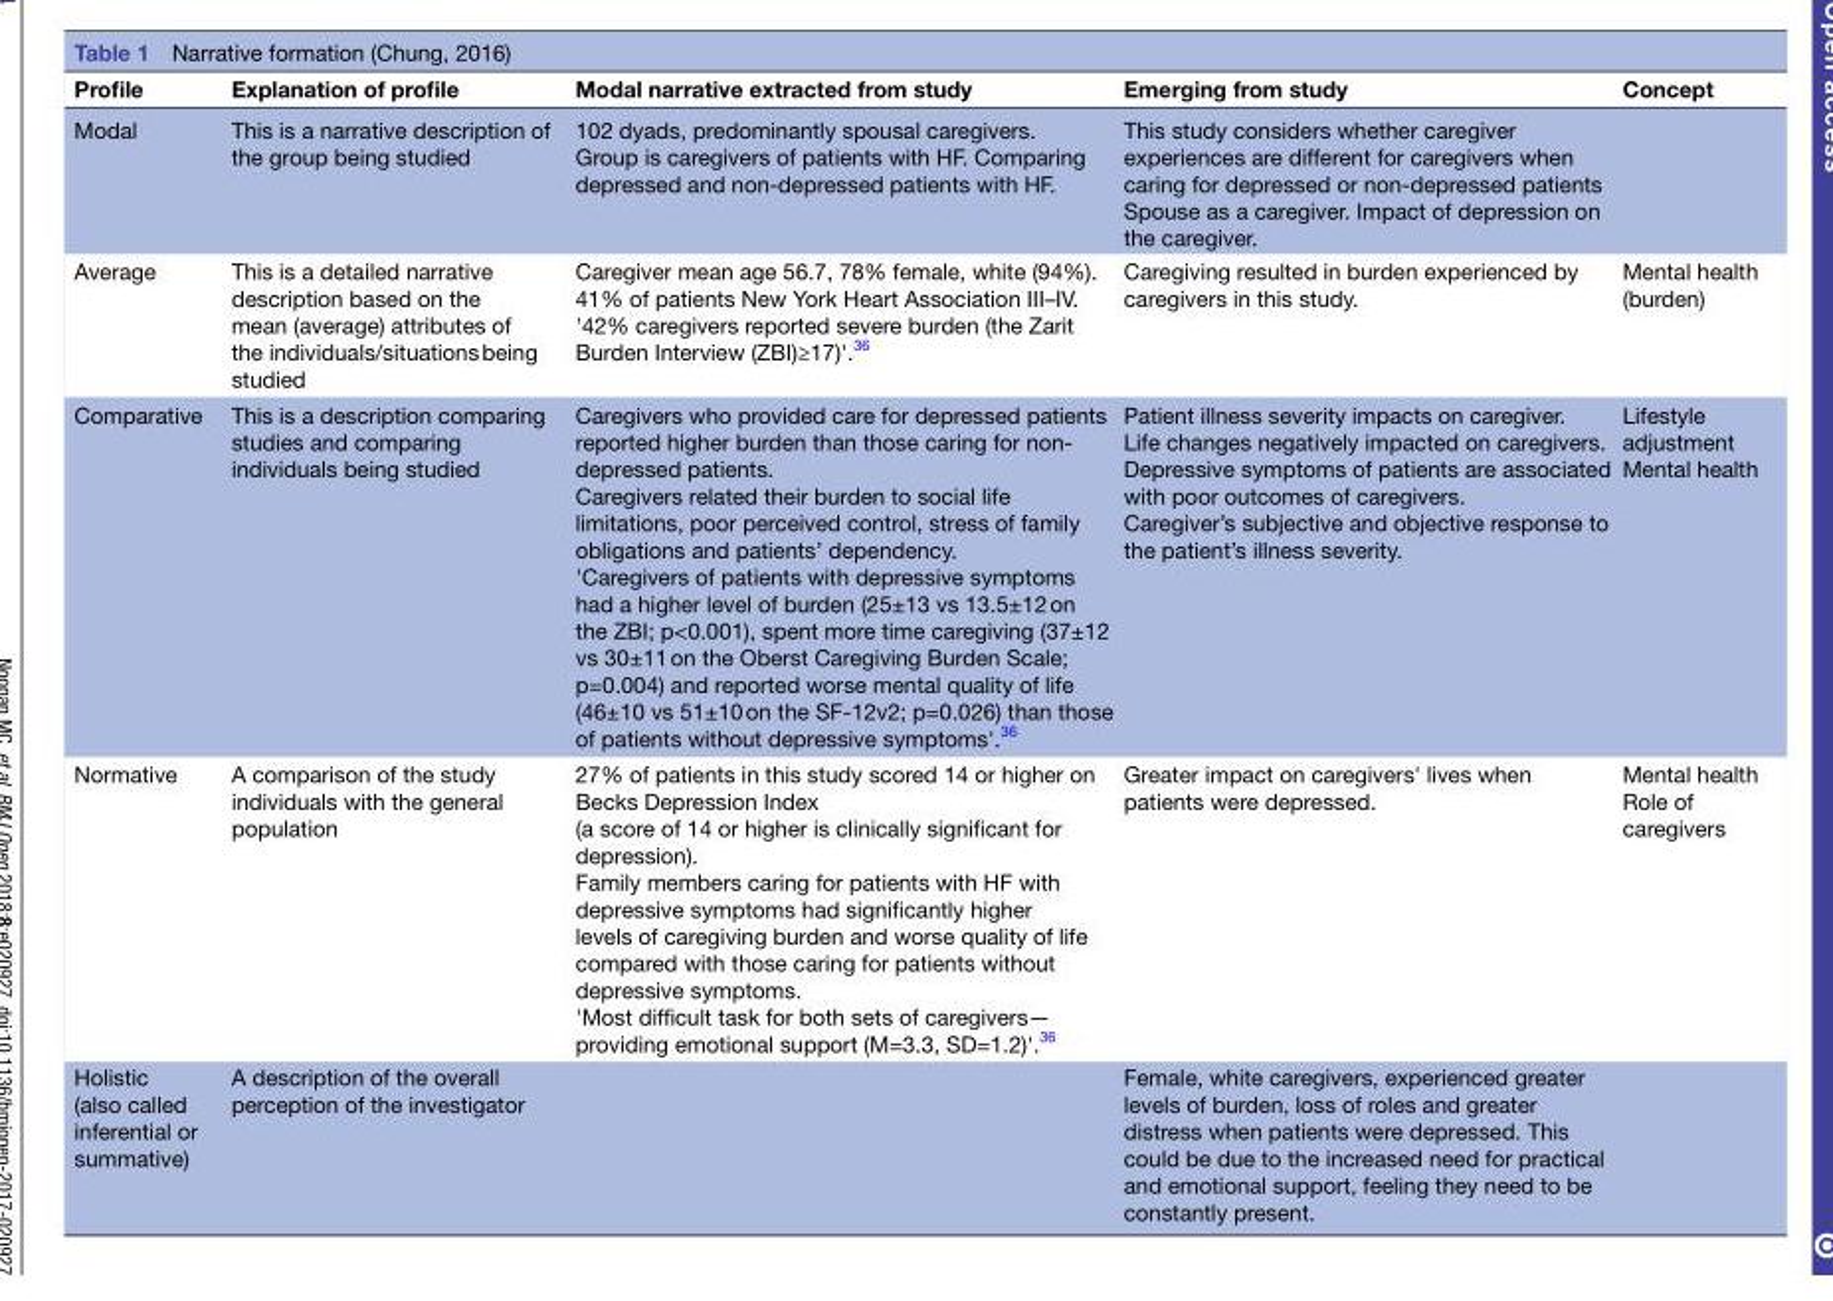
<table><thead><tr><td>Profile</td><td>Explanation of profile</td><td>Modal narrative extracted from study</td><td>Emerging from study</td><td>Concept</td></tr></thead><tbody><tr><td>Modal</td><td>This is a narrative description of the group being studied</td><td>102 dyads, predominantly spousal caregivers. Group is caregivers of patients with HF. Comparing depressed and non-depressed patients with HF.</td><td>This study considers whether caregiver experiences are different for caregivers when caring for depressed or non-depressed patients Spouse as a caregiver. Impact of depression on the caregiver.</td><td></td></tr><tr><td>Average</td><td>This is a detailed narrative description based on the mean (average) attributes of the individuals/situations being studied</td><td>Caregiver mean age 56.7, 78% female, white (94%). 41% of patients New York Heart Association III–IV. &#x27;42% caregivers reported severe burden (the Zarit Burden Interview (ZBI)≥17)&#x27;.<sup>36</sup></td><td>Caregiving resulted in burden experienced by caregivers in this study.</td><td>Mental health (burden)</td></tr><tr><td>Comparative</td><td>This is a description comparing studies and comparing individuals being studied</td><td>Caregivers who provided care for depressed patients reported higher burden than those caring for non- depressed patients. Caregivers related their burden to social life limitations, poor perceived control, stress of family obligations and patients’ dependency. &#x27;Caregivers of patients with depressive symptoms had a higher level of burden (25±13 vs 13.5±12 on the ZBI; p&lt;0.001), spent more time caregiving (37±12 vs 30±11 on the Oberst Caregiving Burden Scale; p=0.004) and reported worse mental quality of life (46±10 vs 51±10 on the SF-12v2; p=0.026) than those of patients without depressive symptoms&#x27;.<sup>36</sup></td><td>Patient illness severity impacts on caregiver. Life changes negatively impacted on caregivers. Depressive symptoms of patients are associated with poor outcomes of caregivers. Caregiver’s subjective and objective response to the patient’s illness severity.</td><td>Lifestyle adjustment Mental health</td></tr><tr><td>Normative</td><td>A comparison of the study individuals with the general population</td><td>27% of patients in this study scored 14 or higher on Becks Depression Index (a score of 14 or higher is clinically significant for depression). Family members caring for patients with HF with depressive symptoms had significantly higher levels of caregiving burden and worse quality of life compared with those caring for patients without depressive symptoms. &#x27;Most difficult task for both sets of caregivers— providing emotional support (M=3.3, SD=1.2)&#x27;.<sup>36</sup></td><td>Greater impact on caregivers&#x27; lives when patients were depressed.</td><td>Mental health Role of caregivers</td></tr><tr><td>Holistic (also called inferential or summative)</td><td>A description of the overall perception of the investigator</td><td></td><td>Female, white caregivers, experienced greater levels of burden, loss of roles and greater distress when patients were depressed. This could be due to the increased need for practical and emotional support, feeling they need to be constantly present.</td><td></td></tr></tbody></table>